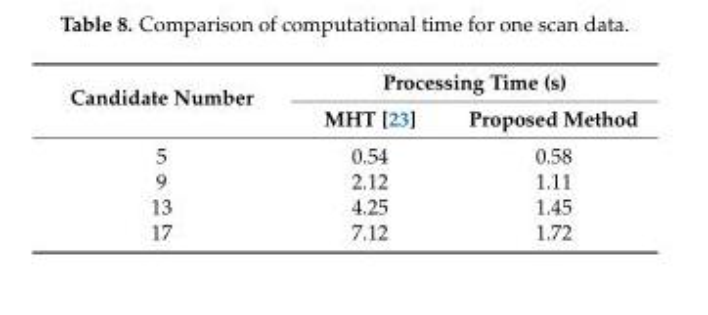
<table><thead><tr><td rowspan="2">Candidate Number</td><td colspan="2">Processing Time (s)</td></tr><tr><td>MHT [23]</td><td>Proposed Method</td></tr></thead><tbody><tr><td>5</td><td>0.54</td><td>0.58</td></tr><tr><td>9</td><td>2.12</td><td>1.11</td></tr><tr><td>13</td><td>4.25</td><td>1.45</td></tr><tr><td>17</td><td>7.12</td><td>1.72</td></tr></tbody></table>